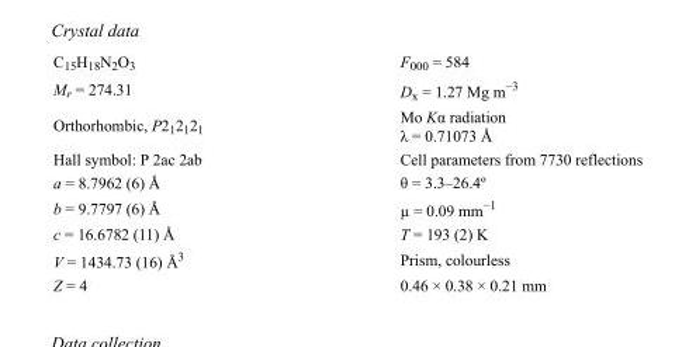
<table><tbody><tr><td>C<sub>15</sub>H<sub>18</sub>N<sub>2</sub>O<sub>3</sub></td><td>F<sub>000</sub> = 584</td></tr><tr><td>M<sub>r</sub> = 274.31</td><td>D<sub>x</sub> = 1.27 Mg m<sup>−3</sup></td></tr><tr><td>Orthorhombic, P2<sub>1</sub>2<sub>1</sub>2<sub>1</sub></td><td>Mo Kα radiation λ = 0.71073 Å</td></tr><tr><td>Hall symbol: P 2ac 2ab</td><td>Cell parameters from 7730 reflections</td></tr><tr><td>a = 8.7962 (6) Å</td><td>θ = 3.3–26.4º</td></tr><tr><td>b = 9.7797 (6) Å</td><td>µ = 0.09 mm<sup>−1</sup></td></tr><tr><td>c = 16.6782 (11) Å</td><td>T = 193 (2) K</td></tr><tr><td>V = 1434.73 (16) Å<sup>3</sup></td><td>Prism, colourless</td></tr><tr><td>Z = 4</td><td>0.46 × 0.38 × 0.21 mm</td></tr></tbody></table>